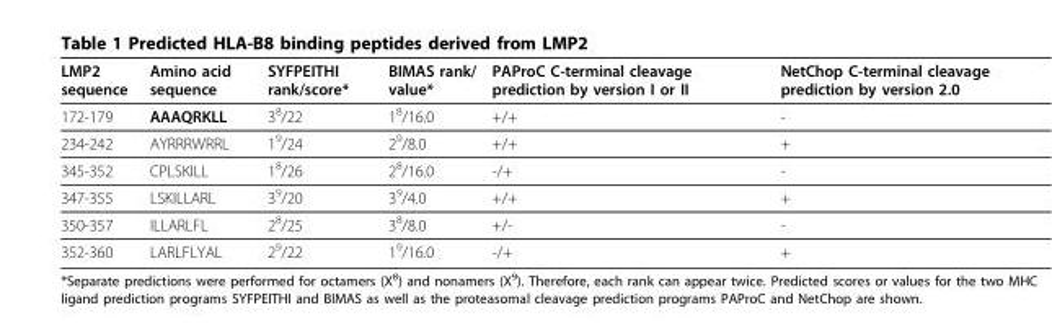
<table><thead><tr><td>LMP2 sequence</td><td>Amino acid sequence</td><td>SYFPEITHI rank/score*</td><td>BIMAS rank/ value*</td><td>PAProC C-terminal cleavage prediction by version I or II</td><td>NetChop C-terminal cleavage prediction by version 2.0</td></tr></thead><tbody><tr><td>172-179</td><td>AAAQRKLL</td><td>3<sup>8</sup>/22</td><td>1<sup>8</sup>/16.0</td><td>+/+</td><td>-</td></tr><tr><td>234-242</td><td>AYRRRWRRL</td><td>1<sup>9</sup>/24</td><td>2<sup>9</sup>/8.0</td><td>+/+</td><td>+</td></tr><tr><td>345-352</td><td>CPLSKILL</td><td>1<sup>8</sup>/26</td><td>2<sup>8</sup>/16.0</td><td>-/+</td><td>-</td></tr><tr><td>347-355</td><td>LSKILLARL</td><td>3<sup>9</sup>/20</td><td>3<sup>9</sup>/4.0</td><td>+/+</td><td>+</td></tr><tr><td>350-357</td><td>ILLARLFL</td><td>2<sup>8</sup>/25</td><td>3<sup>8</sup>/8.0</td><td>+/-</td><td>-</td></tr><tr><td>352-360</td><td>LARLFLYAL</td><td>2<sup>9</sup>/22</td><td>1<sup>9</sup>/16.0</td><td>-/+</td><td>+</td></tr></tbody></table>